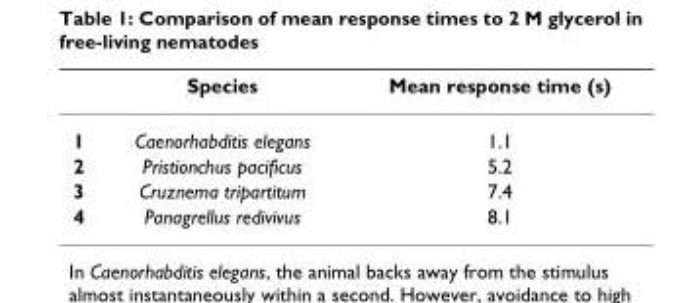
<table><thead><tr><td></td><td>Species</td><td>Mean response time (s)</td></tr></thead><tbody><tr><td>1</td><td>Caenorhabditis elegans</td><td>1.1</td></tr><tr><td>2</td><td>Pristionchus pacificus</td><td>5.2</td></tr><tr><td>3</td><td>Cruznema tripartitum</td><td>7.4</td></tr><tr><td>4</td><td>Panagrellus redivivus</td><td>8.1</td></tr></tbody></table>